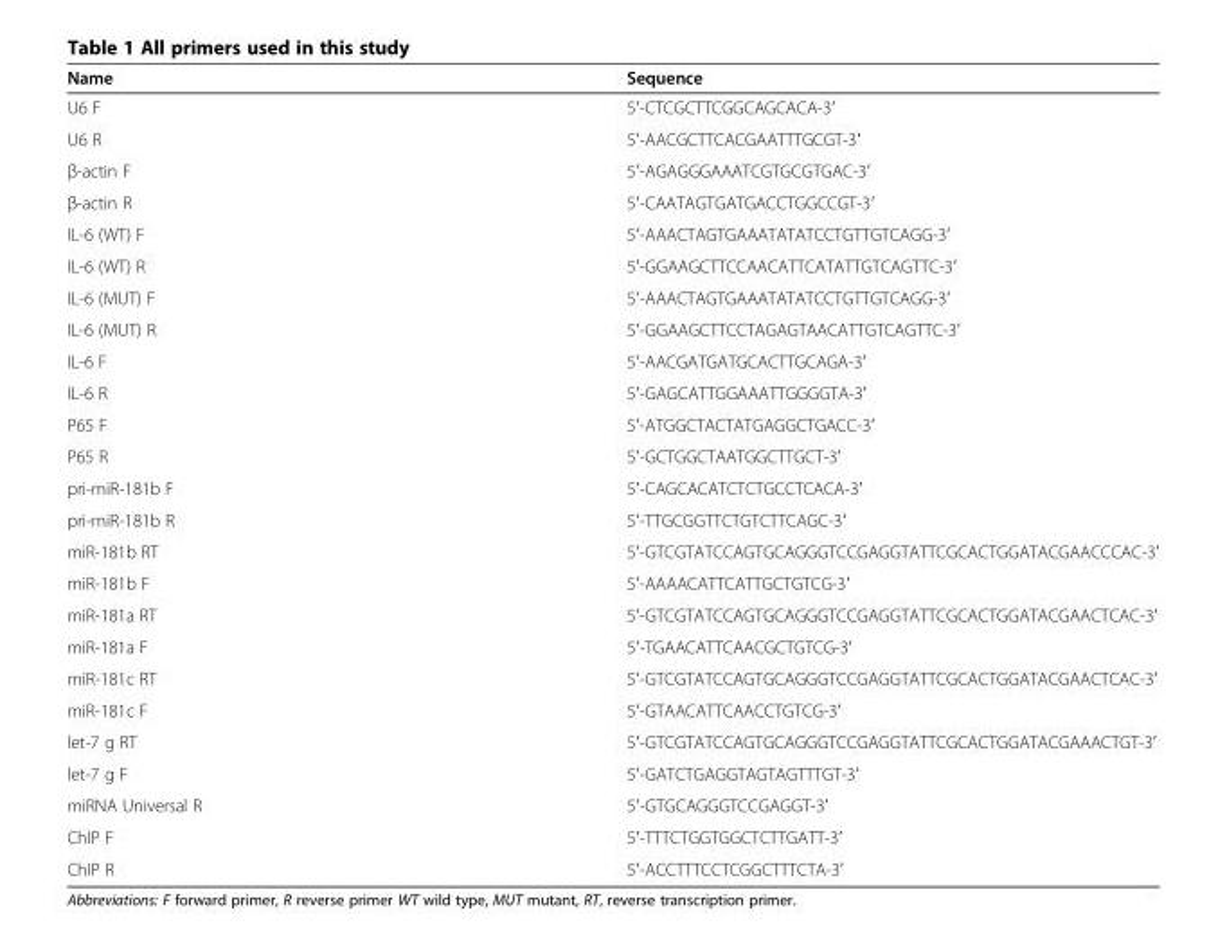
<table><thead><tr><td>Name</td><td>Sequence</td></tr></thead><tbody><tr><td>U6 F</td><td>5′-CTCGCTTCGGCAGCACA-3′</td></tr><tr><td>U6 R</td><td>5′-AACGCTTCACGAATTTGCGT-3′</td></tr><tr><td>β-actin F</td><td>5′-AGAGGGAAATCGTGCGTGAC-3′</td></tr><tr><td>β-actin R</td><td>5′-CAATAGTGATGACCTGGCCGT-3′</td></tr><tr><td>IL-6 (WT) F</td><td>5′-AAACTAGTGAAATATATCCTGTTGTCAGG-3′</td></tr><tr><td>IL-6 (WT) R</td><td>5′-GGAAGCTTCCAACATTCATATTGTCAGTTC-3′</td></tr><tr><td>IL-6 (MUT) F</td><td>5′-AAACTAGTGAAATATATCCTGTTGTCAGG-3′</td></tr><tr><td>IL-6 (MUT) R</td><td>5′-GGAAGCTTCCTAGAGTAACATTGTCAGTTC-3′</td></tr><tr><td>IL-6 F</td><td>5′-AACGATGATGCACTTGCAGA-3′</td></tr><tr><td>IL-6 R</td><td>5′-GAGCATTGGAAATTGGGGTA-3′</td></tr><tr><td>P65 F</td><td>5′-ATGGCTACTATGAGGCTGACC-3′</td></tr><tr><td>P65 R</td><td>5′-GCTGGCTAATGGCTTGCT-3′</td></tr><tr><td>pri-miR-181b F</td><td>5′-CAGCACATCTCTGCCTCACA-3′</td></tr><tr><td>pri-miR-181b R</td><td>5′-TTGCGGTTCTGTCTTCAGC-3′</td></tr><tr><td>miR-181b RT</td><td>5′-GTCGTATCCAGTGCAGGGTCCGAGGTATTCGCACTGGATACGAACCCAC-3′</td></tr><tr><td>miR-181b F</td><td>5′-AAAACATTCATTGCTGTCG-3′</td></tr><tr><td>miR-181a RT</td><td>5′-GTCGTATCCAGTGCAGGGTCCGAGGTATTCGCACTGGATACGAACTCAC-3′</td></tr><tr><td>miR-181a F</td><td>5′-TGAACATTCAACGCTGTCG-3′</td></tr><tr><td>miR-181c RT</td><td>5′-GTCGTATCCAGTGCAGGGTCCGAGGTATTCGCACTGGATACGAACTCAC-3′</td></tr><tr><td>miR-181c F</td><td>5′-GTAACATTCAACCTGTCG-3′</td></tr><tr><td>let-7 g RT</td><td>5′-GTCGTATCCAGTGCAGGGTCCGAGGTATTCGCACTGGATACGAAACTGT-3′</td></tr><tr><td>let-7 g F</td><td>5′-GATCTGAGGTAGTAGTTTGT-3′</td></tr><tr><td>miRNA Universal R</td><td>5′-GTGCAGGGTCCGAGGT-3′</td></tr><tr><td>ChIP F</td><td>5′-TTTCTGGTGGCTCTTGATT-3′</td></tr><tr><td>ChIP R</td><td>5′-ACCTTTCCTCGGCTTTCTA-3′</td></tr></tbody></table>